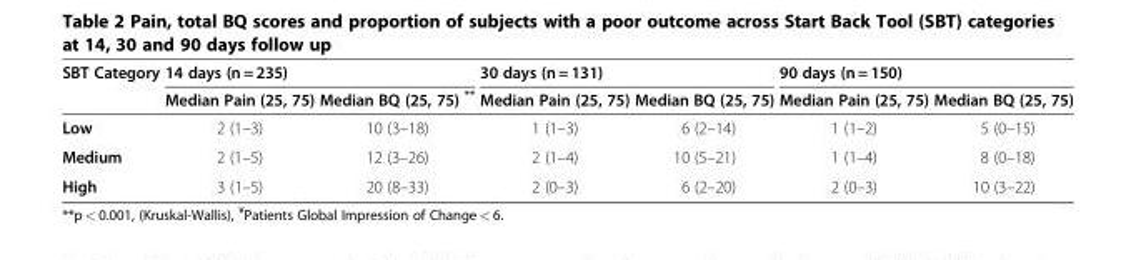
<table><thead><tr><td rowspan="2">SBT Category</td><td colspan="2">14 days (n = 235)</td><td colspan="2">30 days (n = 131)</td><td colspan="2">90 days (n = 150)</td></tr><tr><td>Median Pain (25, 75)</td><td>Median BQ (25, 75) **</td><td>Median Pain (25, 75)</td><td>Median BQ (25, 75)</td><td>Median Pain (25, 75)</td><td>Median BQ (25, 75)</td></tr></thead><tbody><tr><td>Low</td><td>2 (1–3)</td><td>10 (3–18)</td><td>1 (1–3)</td><td>6 (2–14)</td><td>1 (1–2)</td><td>5 (0–15)</td></tr><tr><td>Medium</td><td>2 (1–5)</td><td>12 (3–26)</td><td>2 (1–4)</td><td>10 (5–21)</td><td>1 (1–4)</td><td>8 (0–18)</td></tr><tr><td>High</td><td>3 (1–5)</td><td>20 (8–33)</td><td>2 (0–3)</td><td>6 (2–20)</td><td>2 (0–3)</td><td>10 (3–22)</td></tr></tbody></table>